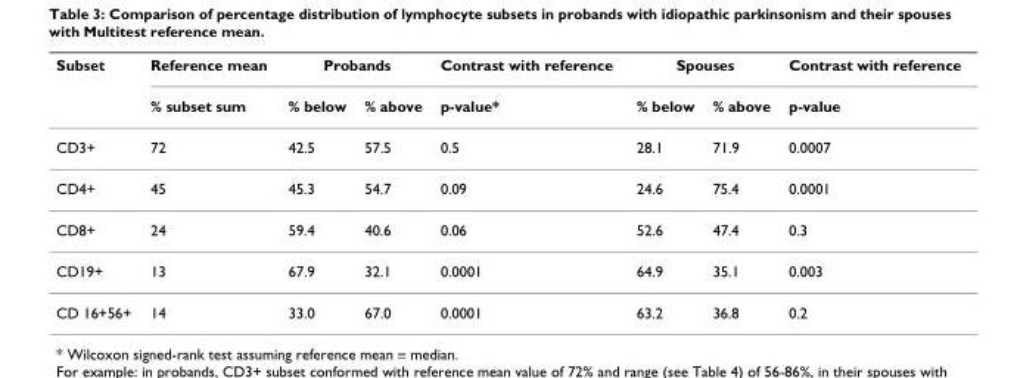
<table><thead><tr><td rowspan="2">Subset</td><td rowspan="2">Reference mean % subset sum</td><td colspan="2">Probands</td><td rowspan="2">Contrast with reference p-value*</td><td colspan="2">Spouses</td><td rowspan="2">Contrast with reference p-value</td></tr><tr><td>% below</td><td>% above</td><td>% below</td><td>% above</td></tr></thead><tbody><tr><td>CD3+</td><td>72</td><td>42.5</td><td>57.5</td><td>0.5</td><td>28.1</td><td>71.9</td><td>0.0007</td></tr><tr><td>CD4+</td><td>45</td><td>45.3</td><td>54.7</td><td>0.09</td><td>24.6</td><td>75.4</td><td>0.0001</td></tr><tr><td>CD8+</td><td>24</td><td>59.4</td><td>40.6</td><td>0.06</td><td>52.6</td><td>47.4</td><td>0.3</td></tr><tr><td>CD19+</td><td>13</td><td>67.9</td><td>32.1</td><td>0.0001</td><td>64.9</td><td>35.1</td><td>0.003</td></tr><tr><td>CD 16+56+</td><td>14</td><td>33.0</td><td>67.0</td><td>0.0001</td><td>63.2</td><td>36.8</td><td>0.2</td></tr></tbody></table>